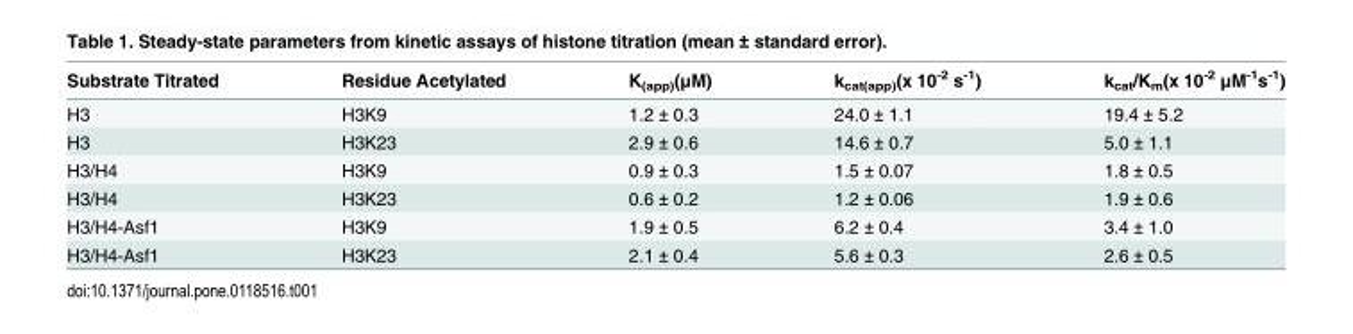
<table><thead><tr><td>Substrate Titrated</td><td>Residue Acetylated</td><td>K<sub>(app)</sub>(μM)</td><td>k<sub>cat(app)</sub>(x 10<sup>-2</sup> s<sup>-1</sup>)</td><td>k<sub>cat</sub>/K<sub>m</sub>(x 10<sup>-2</sup> μM<sup>-1</sup>s<sup>-1</sup>)</td></tr></thead><tbody><tr><td>H3</td><td>H3K9</td><td>1.2 ± 0.3</td><td>24.0 ± 1.1</td><td>19.4 ± 5.2</td></tr><tr><td>H3</td><td>H3K23</td><td>2.9 ± 0.6</td><td>14.6 ± 0.7</td><td>5.0 ± 1.1</td></tr><tr><td>H3/H4</td><td>H3K9</td><td>0.9 ± 0.3</td><td>1.5 ± 0.07</td><td>1.8 ± 0.5</td></tr><tr><td>H3/H4</td><td>H3K23</td><td>0.6 ± 0.2</td><td>1.2 ± 0.06</td><td>1.9 ± 0.6</td></tr><tr><td>H3/H4-Asf1</td><td>H3K9</td><td>1.9 ± 0.5</td><td>6.2 ± 0.4</td><td>3.4 ± 1.0</td></tr><tr><td>H3/H4-Asf1</td><td>H3K23</td><td>2.1 ± 0.4</td><td>5.6 ± 0.3</td><td>2.6 ± 0.5</td></tr></tbody></table>